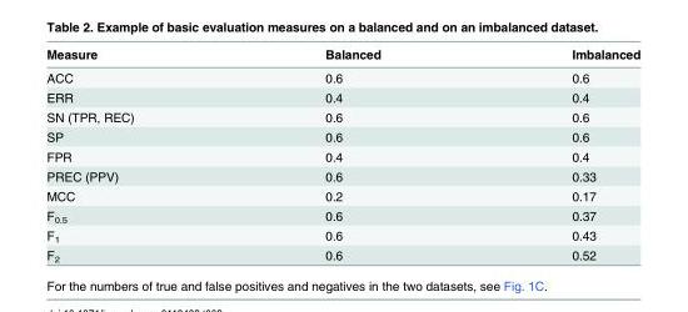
<table><thead><tr><td>Measure</td><td>Balanced</td><td>Imbalanced</td></tr></thead><tbody><tr><td>ACC</td><td>0.6</td><td>0.6</td></tr><tr><td>ERR</td><td>0.4</td><td>0.4</td></tr><tr><td>SN (TPR, REC)</td><td>0.6</td><td>0.6</td></tr><tr><td>SP</td><td>0.6</td><td>0.6</td></tr><tr><td>FPR</td><td>0.4</td><td>0.4</td></tr><tr><td>PREC (PPV)</td><td>0.6</td><td>0.33</td></tr><tr><td>MCC</td><td>0.2</td><td>0.17</td></tr><tr><td>F<sub>0.5</sub></td><td>0.6</td><td>0.37</td></tr><tr><td>F<sub>1</sub></td><td>0.6</td><td>0.43</td></tr><tr><td>F<sub>2</sub></td><td>0.6</td><td>0.52</td></tr></tbody></table>